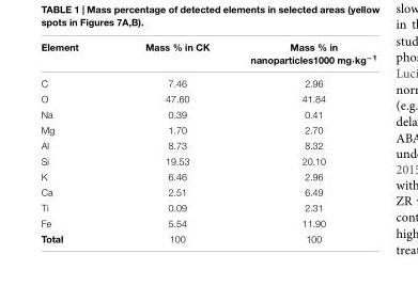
<table><thead><tr><td>Element</td><td>Mass % in CK</td><td>Mass % in nanoparticles1000 mg·kg−1</td></tr></thead><tbody><tr><td>C</td><td>7.46</td><td>2.96</td></tr><tr><td>O</td><td>47.60</td><td>41.84</td></tr><tr><td>Na</td><td>0.39</td><td>0.41</td></tr><tr><td>Mg</td><td>1.70</td><td>2.70</td></tr><tr><td>Al</td><td>8.73</td><td>8.32</td></tr><tr><td>Si</td><td>19.53</td><td>20.10</td></tr><tr><td>K</td><td>6.46</td><td>2.96</td></tr><tr><td>Ca</td><td>2.51</td><td>6.49</td></tr><tr><td>Ti</td><td>0.09</td><td>2.31</td></tr><tr><td>Fe</td><td>5.54</td><td>11.90</td></tr><tr><td>Total</td><td>100</td><td>100</td></tr></tbody></table>